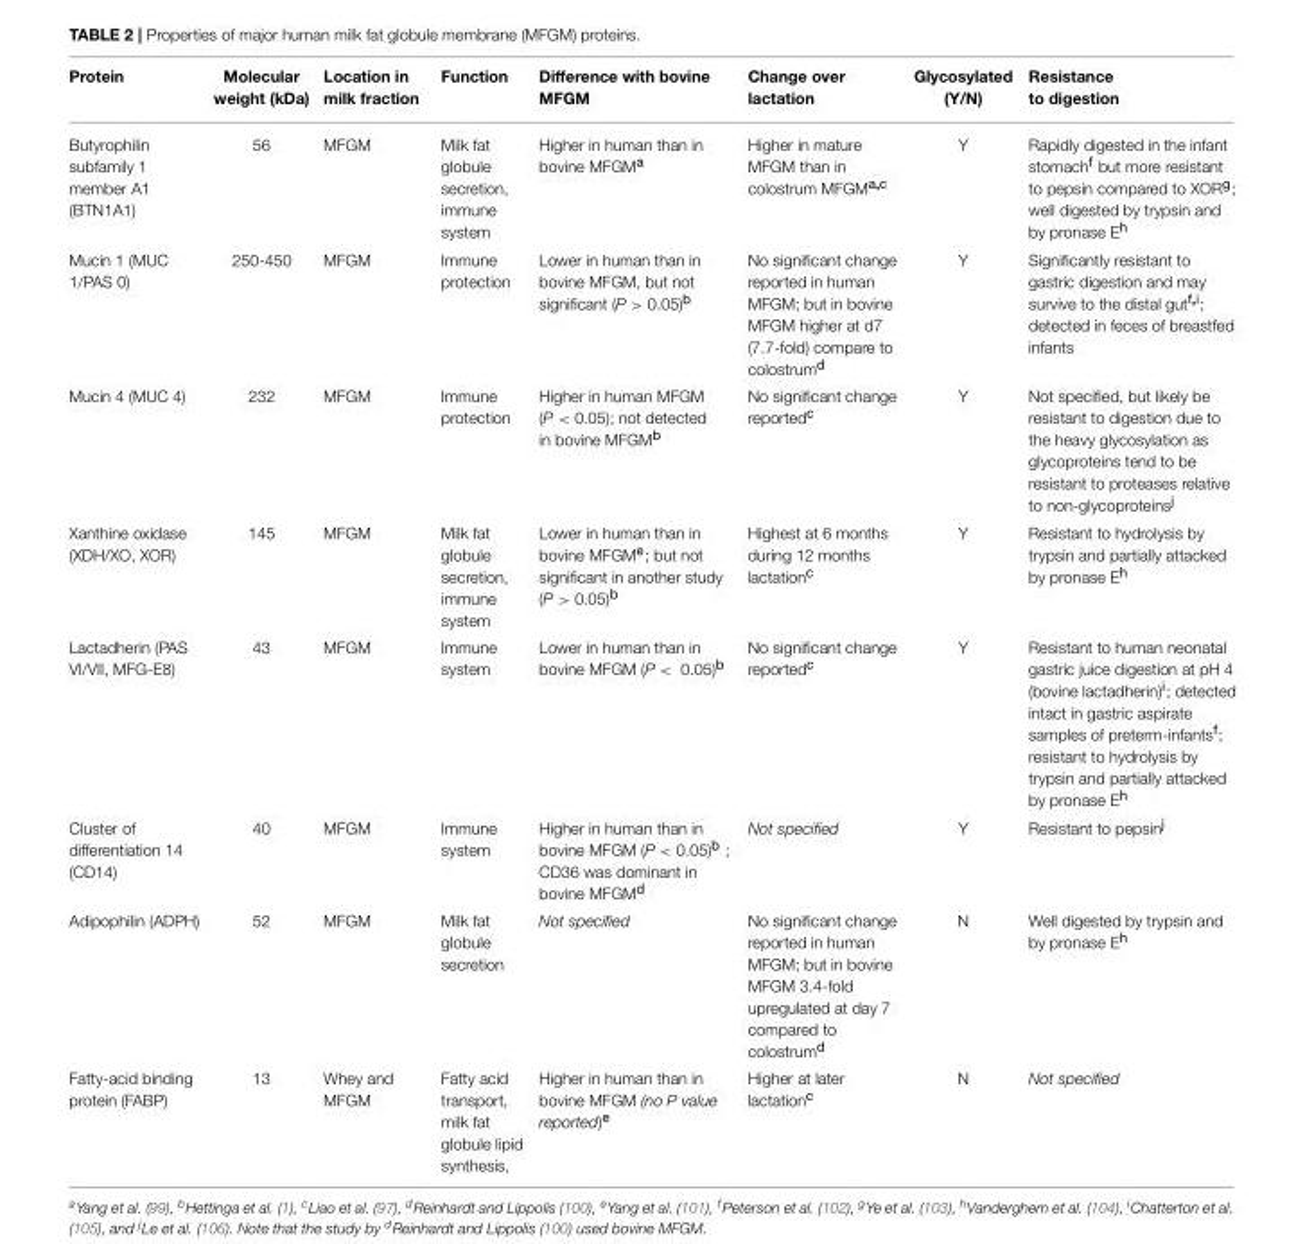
<table><thead><tr><td>Protein</td><td>Molecular weight (kDa)</td><td>Location in milk fraction</td><td>Function</td><td>Difference with bovine MFGM</td><td>Change over lactation</td><td>Glycosylated (Y/N)</td><td>Resistance to digestion</td></tr></thead><tbody><tr><td>Butyrophilin subfamily 1 member A1 (BTN1A1)</td><td>56</td><td>MFGM</td><td>Milk fat globule secretion, immune system</td><td>Higher in human than in bovine MFGM<sup>a</sup></td><td>Higher in mature MFGM than in colostrum MFGM<sup>a,c</sup></td><td>Y</td><td>Rapidly digested in the infant stomach<sup>f</sup> but more resistant to pepsin compared to XOR<sup>g</sup>; well digested by trypsin and by pronase E<sup>h</sup></td></tr><tr><td>Mucin 1 (MUC 1/PAS 0)</td><td>250-450</td><td>MFGM</td><td>Immune protection</td><td>Lower in human than in bovine MFGM, but not significant (P &gt; 0.05)<sup>b</sup></td><td>No significant change reported in human MFGM; but in bovine MFGM higher at d7 (7.7-fold) compare to colostrum<sup>d</sup></td><td>Y</td><td>Significantly resistant to gastric digestion and may survive to the distal gut<sup>f,i</sup>; detected in feces of breastfed infants</td></tr><tr><td>Mucin 4 (MUC 4)</td><td>232</td><td>MFGM</td><td>Immune protection</td><td>Higher in human MFGM (P &lt; 0.05); not detected in bovine MFGM<sup>b</sup></td><td>No significant change reported<sup>c</sup></td><td>Y</td><td>Not specified, but likely be resistant to digestion due to the heavy glycosylation as glycoproteins tend to be resistant to proteases relative to non-glycoproteins<sup>j</sup></td></tr><tr><td>Xanthine oxidase (XDH/XO, XOR)</td><td>145</td><td>MFGM</td><td>Milk fat globule secretion, immune system</td><td>Lower in human than in bovine MFGM<sup>e</sup>; but not significant in another study (P &gt; 0.05)<sup>b</sup></td><td>Highest at 6 months during 12 months lactation<sup>c</sup></td><td>Y</td><td>Resistant to hydrolysis by trypsin and partially attacked by pronase E<sup>h</sup></td></tr><tr><td>Lactadherin (PAS VI/VII, MFG-E8)</td><td>43</td><td>MFGM</td><td>Immune system</td><td>Lower in human than in bovine MFGM (P &lt; 0.05)<sup>b</sup></td><td>No significant change reported<sup>c</sup></td><td>Y</td><td>Resistant to human neonatal gastric juice digestion at pH 4 (bovine lactadherin)<sup>i</sup>; detected intact in gastric aspirate samples of preterm-infants<sup>f</sup>; resistant to hydrolysis by trypsin and partially attacked by pronase E<sup>h</sup></td></tr><tr><td>Cluster of differentiation 14 (CD14)</td><td>40</td><td>MFGM</td><td>Immune system</td><td>Higher in human than in bovine MFGM (P &lt; 0.05)<sup>b</sup> ; CD36 was dominant in bovine MFGM<sup>d</sup></td><td>Not specified</td><td>Y</td><td>Resistant to pepsin<sup>j</sup></td></tr><tr><td>Adipophilin (ADPH)</td><td>52</td><td>MFGM</td><td>Milk fat globule secretion</td><td>Not specified</td><td>No significant change reported in human MFGM; but in bovine MFGM 3.4-fold upregulated at day 7 compared to colostrum<sup>d</sup></td><td>N</td><td>Well digested by trypsin and by pronase E<sup>h</sup></td></tr><tr><td>Fatty-acid binding protein (FABP)</td><td>13</td><td>Whey and MFGM</td><td>Fatty acid transport, milk fat globule lipid synthesis,</td><td>Higher in human than in bovine MFGM (no P value reported)<sup>e</sup></td><td>Higher at later lactation<sup>c</sup></td><td>N</td><td>Not specified</td></tr></tbody></table>